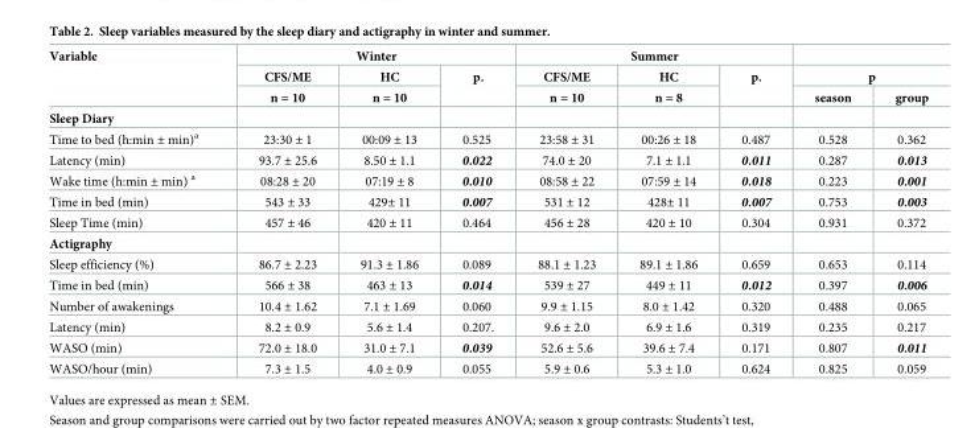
<table><thead><tr><td rowspan="3">Variable</td><td colspan="3">Winter</td><td colspan="3">Summer</td><td></td><td></td></tr><tr><td rowspan="2">CFS/ME n = 10</td><td rowspan="2">HC n = 10</td><td rowspan="2">p.</td><td rowspan="2">CFS/ME n = 10</td><td rowspan="2">HC n = 8</td><td rowspan="2">p.</td><td colspan="2">p</td></tr><tr><td>season</td><td>group</td></tr></thead><tbody><tr><td colspan="9">Sleep Diary</td></tr><tr><td>Time to bed (h:min ± min)<sup>a</sup></td><td>23:30 ± 1</td><td>00:09 ± 13</td><td>0.525</td><td>23:58 ± 31</td><td>00:26 ± 18</td><td>0.487</td><td>0.528</td><td>0.362</td></tr><tr><td>Latency (min)</td><td>93.7 ± 25.6</td><td>8.50 ± 1.1</td><td>0.022</td><td>74.0 ± 20</td><td>7.1 ± 1.1</td><td>0.011</td><td>0.287</td><td>0.013</td></tr><tr><td>Wake time (h:min ± min) <sup>a</sup></td><td>08:28 ± 20</td><td>07:19 ± 8</td><td>0.010</td><td>08:58 ± 22</td><td>07:59 ± 14</td><td>0.018</td><td>0.223</td><td>0.001</td></tr><tr><td>Time in bed (min)</td><td>543 ± 33</td><td>429± 11</td><td>0.007</td><td>531 ± 12</td><td>428± 11</td><td>0.007</td><td>0.753</td><td>0.003</td></tr><tr><td>Sleep Time (min)</td><td>457 ± 46</td><td>420 ± 11</td><td>0.464</td><td>456 ± 28</td><td>420 ± 10</td><td>0.304</td><td>0.931</td><td>0.372</td></tr><tr><td colspan="9">Actigraphy</td></tr><tr><td>Sleep efficiency (%)</td><td>86.7 ± 2.23</td><td>91.3 ± 1.86</td><td>0.089</td><td>88.1 ± 1.23</td><td>89.1 ± 1.86</td><td>0.659</td><td>0.653</td><td>0.114</td></tr><tr><td>Time in bed (min)</td><td>566 ± 38</td><td>463 ± 13</td><td>0.014</td><td>539 ± 27</td><td>449 ± 11</td><td>0.012</td><td>0.397</td><td>0.006</td></tr><tr><td>Number of awakenings</td><td>10.4 ± 1.62</td><td>7.1 ± 1.69</td><td>0.060</td><td>9.9 ± 1.15</td><td>8.0 ± 1.42</td><td>0.320</td><td>0.488</td><td>0.065</td></tr><tr><td>Latency (min)</td><td>8.2 ± 0.9</td><td>5.6 ± 1.4</td><td>0.207.</td><td>9.6 ± 2.0</td><td>6.9 ± 1.6</td><td>0.319</td><td>0.235</td><td>0.217</td></tr><tr><td>WASO (min)</td><td>72.0 ± 18.0</td><td>31.0 ± 7.1</td><td>0.039</td><td>52.6 ± 5.6</td><td>39.6 ± 7.4</td><td>0.171</td><td>0.807</td><td>0.011</td></tr><tr><td>WASO/hour (min)</td><td>7.3 ± 1.5</td><td>4.0 ± 0.9</td><td>0.055</td><td>5.9 ± 0.6</td><td>5.3 ± 1.0</td><td>0.624</td><td>0.825</td><td>0.059</td></tr></tbody></table>